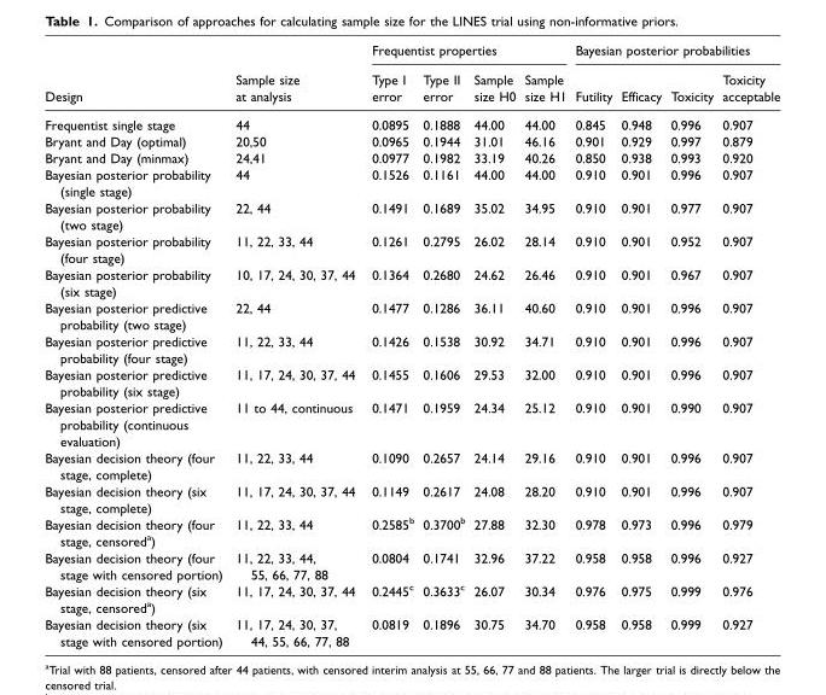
<table><thead><tr><td rowspan="2">Design</td><td rowspan="2">Sample size at analysis</td><td colspan="4">Frequentist properties</td><td colspan="4">Bayesian posterior probabilities</td></tr><tr><td>Type I error</td><td>Type II error</td><td>Sample size H0</td><td>Sample size H1</td><td>Futility</td><td>Efficacy</td><td>Toxicity</td><td>Toxicity acceptable</td></tr></thead><tbody><tr><td>Frequentist single stage</td><td>44</td><td>0.0895</td><td>0.1888</td><td>44.00</td><td>44.00</td><td>0.845</td><td>0.948</td><td>0.996</td><td>0.907</td></tr><tr><td>Bryant and Day (optimal)</td><td>20,50</td><td>0.0965</td><td>0.1944</td><td>31.01</td><td>46.16</td><td>0.901</td><td>0.929</td><td>0.997</td><td>0.879</td></tr><tr><td>Bryant and Day (minmax)</td><td>24,41</td><td>0.0977</td><td>0.1982</td><td>33.19</td><td>40.26</td><td>0.850</td><td>0.938</td><td>0.993</td><td>0.920</td></tr><tr><td>Bayesian posterior probability (single stage)</td><td>44</td><td>0.1526</td><td>0.1161</td><td>44.00</td><td>44.00</td><td>0.910</td><td>0.901</td><td>0.996</td><td>0.907</td></tr><tr><td>Bayesian posterior probability (two stage)</td><td>22, 44</td><td>0.1491</td><td>0.1689</td><td>35.02</td><td>34.95</td><td>0.910</td><td>0.901</td><td>0.977</td><td>0.907</td></tr><tr><td>Bayesian posterior probability (four stage)</td><td>11, 22, 33, 44</td><td>0.1261</td><td>0.2795</td><td>26.02</td><td>28.14</td><td>0.910</td><td>0.901</td><td>0.952</td><td>0.907</td></tr><tr><td>Bayesian posterior probability (six stage)</td><td>10, 17, 24, 30, 37, 44</td><td>0.1364</td><td>0.2680</td><td>24.62</td><td>26.46</td><td>0.910</td><td>0.901</td><td>0.967</td><td>0.907</td></tr><tr><td>Bayesian posterior predictive probability (two stage)</td><td>22, 44</td><td>0.1477</td><td>0.1286</td><td>36.11</td><td>40.60</td><td>0.910</td><td>0.901</td><td>0.996</td><td>0.907</td></tr><tr><td>Bayesian posterior predictive probability (four stage)</td><td>11, 22, 33, 44</td><td>0.1426</td><td>0.1538</td><td>30.92</td><td>34.71</td><td>0.910</td><td>0.901</td><td>0.996</td><td>0.907</td></tr><tr><td>Bayesian posterior predictive probability (six stage)</td><td>11, 17, 24, 30, 37, 44</td><td>0.1455</td><td>0.1606</td><td>29.53</td><td>32.00</td><td>0.910</td><td>0.901</td><td>0.996</td><td>0.907</td></tr><tr><td>Bayesian posterior predictive probability (continuous evaluation)</td><td>11 to 44, continuous</td><td>0.1471</td><td>0.1959</td><td>24.34</td><td>25.12</td><td>0.910</td><td>0.901</td><td>0.990</td><td>0.907</td></tr><tr><td>Bayesian decision theory (four stage, complete)</td><td>11, 22, 33, 44</td><td>0.1090</td><td>0.2657</td><td>24.14</td><td>29.16</td><td>0.910</td><td>0.901</td><td>0.996</td><td>0.907</td></tr><tr><td>Bayesian decision theory (six stage, complete)</td><td>11, 17, 24, 30, 37, 44</td><td>0.1149</td><td>0.2617</td><td>24.08</td><td>28.20</td><td>0.910</td><td>0.901</td><td>0.996</td><td>0.907</td></tr><tr><td>Bayesian decision theory (four stage, censored<sup>a</sup>)</td><td>11, 22, 33, 44</td><td>0.2585<sup>b</sup></td><td>0.3700<sup>b</sup></td><td>27.88</td><td>32.30</td><td>0.978</td><td>0.973</td><td>0.996</td><td>0.979</td></tr><tr><td>Bayesian decision theory (four stage with censored portion)</td><td>11, 22, 33, 44, 55, 66, 77, 88</td><td>0.0804</td><td>0.1741</td><td>32.96</td><td>37.22</td><td>0.958</td><td>0.958</td><td>0.996</td><td>0.927</td></tr><tr><td>Bayesian decision theory (six stage, censored<sup>a</sup>)</td><td>11, 17, 24, 30, 37, 44</td><td>0.2445<sup>c</sup></td><td>0.3633<sup>c</sup></td><td>26.07</td><td>30.34</td><td>0.976</td><td>0.975</td><td>0.999</td><td>0.976</td></tr><tr><td>Bayesian decision theory (six stage with censored portion)</td><td>11, 17, 24, 30, 37, 44, 55, 66, 77, 88</td><td>0.0819</td><td>0.1896</td><td>30.75</td><td>34.70</td><td>0.958</td><td>0.958</td><td>0.999</td><td>0.927</td></tr></tbody></table>